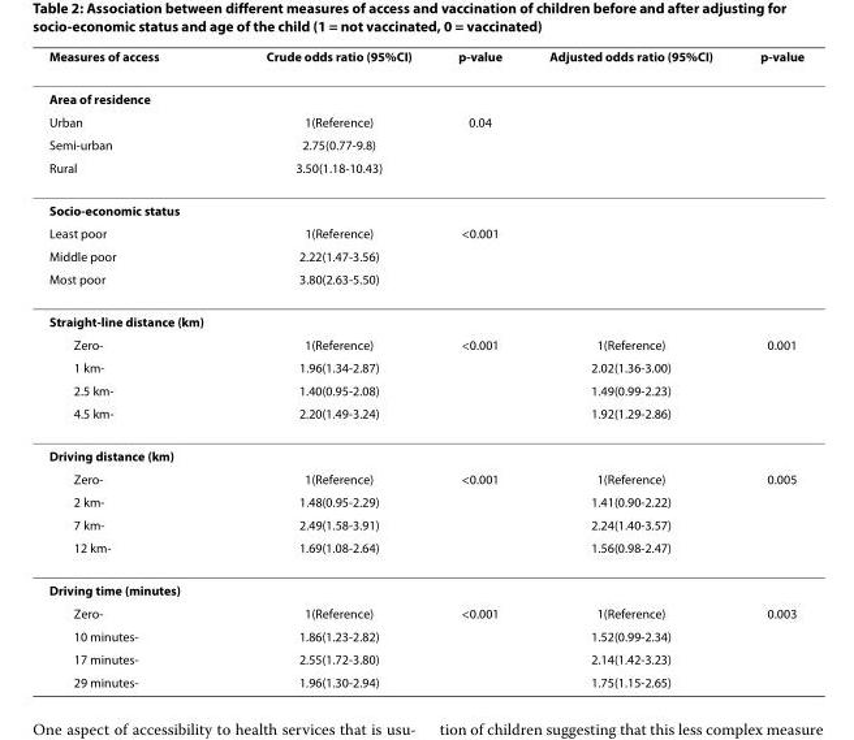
<table><thead><tr><td>Measures of access</td><td>Crude odds ratio (95%CI)</td><td>p-value</td><td>Adjusted odds ratio (95%CI)</td><td>p-value</td></tr></thead><tbody><tr><td colspan="5">Area of residence</td></tr><tr><td>Urban</td><td>1(Reference)</td><td>0.04</td><td></td><td></td></tr><tr><td>Semi-urban</td><td>2.75(0.77-9.8)</td><td></td><td></td><td></td></tr><tr><td>Rural</td><td>3.50(1.18-10.43)</td><td></td><td></td><td></td></tr><tr><td colspan="5">Socio-economic status</td></tr><tr><td>Least poor</td><td>1(Reference)</td><td>&lt;0.001</td><td></td><td></td></tr><tr><td>Middle poor</td><td>2.22(1.47-3.56)</td><td></td><td></td><td></td></tr><tr><td>Most poor</td><td>3.80(2.63-5.50)</td><td></td><td></td><td></td></tr><tr><td colspan="5">Straight-line distance (km)</td></tr><tr><td>Zero-</td><td>1(Reference)</td><td>&lt;0.001</td><td>1(Reference)</td><td>0.001</td></tr><tr><td>1 km-</td><td>1.96(1.34-2.87)</td><td></td><td>2.02(1.36-3.00)</td><td></td></tr><tr><td>2.5 km-</td><td>1.40(0.95-2.08)</td><td></td><td>1.49(0.99-2.23)</td><td></td></tr><tr><td>4.5 km-</td><td>2.20(1.49-3.24)</td><td></td><td>1.92(1.29-2.86)</td><td></td></tr><tr><td colspan="5">Driving distance (km)</td></tr><tr><td>Zero-</td><td>1(Reference)</td><td>&lt;0.001</td><td>1(Reference)</td><td>0.005</td></tr><tr><td>2 km-</td><td>1.48(0.95-2.29)</td><td></td><td>1.41(0.90-2.22)</td><td></td></tr><tr><td>7 km-</td><td>2.49(1.58-3.91)</td><td></td><td>2.24(1.40-3.57)</td><td></td></tr><tr><td>12 km-</td><td>1.69(1.08-2.64)</td><td></td><td>1.56(0.98-2.47)</td><td></td></tr><tr><td colspan="5">Driving time (minutes)</td></tr><tr><td>Zero-</td><td>1(Reference)</td><td>&lt;0.001</td><td>1(Reference)</td><td>0.003</td></tr><tr><td>10 minutes-</td><td>1.86(1.23-2.82)</td><td></td><td>1.52(0.99-2.34)</td><td></td></tr><tr><td>17 minutes-</td><td>2.55(1.72-3.80)</td><td></td><td>2.14(1.42-3.23)</td><td></td></tr><tr><td>29 minutes-</td><td>1.96(1.30-2.94)</td><td></td><td>1.75(1.15-2.65)</td><td></td></tr></tbody></table>